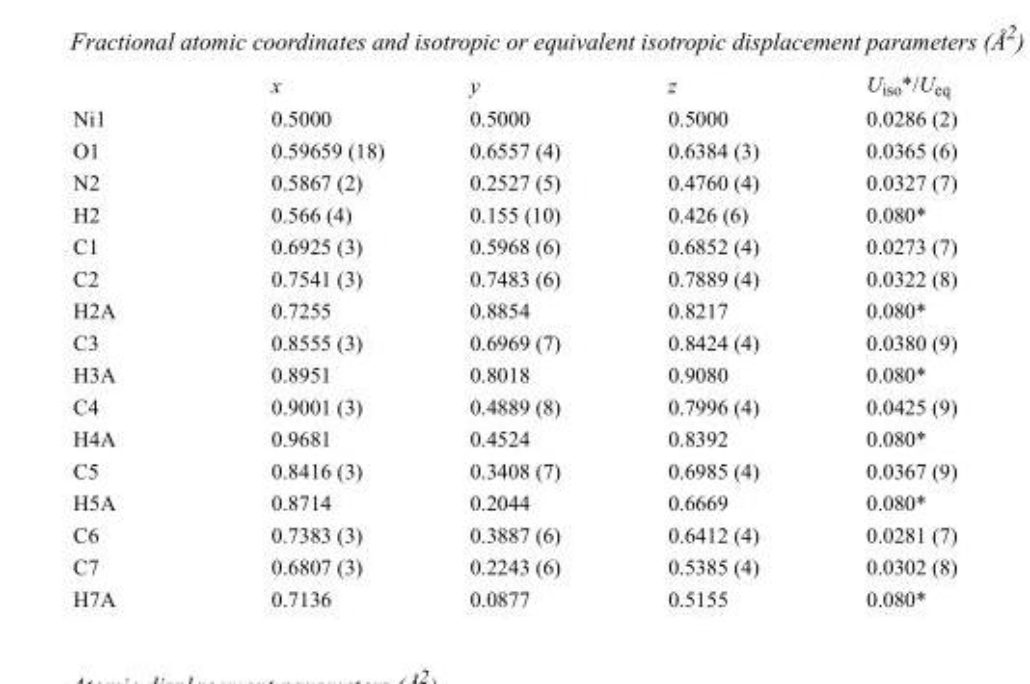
<table><thead><tr><td></td><td>x</td><td>y</td><td>z</td><td>U<sub>iso</sub>*/U<sub>eq</sub></td></tr></thead><tbody><tr><td>Ni1</td><td>0.5000</td><td>0.5000</td><td>0.5000</td><td>0.0286 (2)</td></tr><tr><td>O1</td><td>0.59659 (18)</td><td>0.6557 (4)</td><td>0.6384 (3)</td><td>0.0365 (6)</td></tr><tr><td>N2</td><td>0.5867 (2)</td><td>0.2527 (5)</td><td>0.4760 (4)</td><td>0.0327 (7)</td></tr><tr><td>H2</td><td>0.566 (4)</td><td>0.155 (10)</td><td>0.426 (6)</td><td>0.080*</td></tr><tr><td>C1</td><td>0.6925 (3)</td><td>0.5968 (6)</td><td>0.6852 (4)</td><td>0.0273 (7)</td></tr><tr><td>C2</td><td>0.7541 (3)</td><td>0.7483 (6)</td><td>0.7889 (4)</td><td>0.0322 (8)</td></tr><tr><td>H2A</td><td>0.7255</td><td>0.8854</td><td>0.8217</td><td>0.080*</td></tr><tr><td>C3</td><td>0.8555 (3)</td><td>0.6969 (7)</td><td>0.8424 (4)</td><td>0.0380 (9)</td></tr><tr><td>H3A</td><td>0.8951</td><td>0.8018</td><td>0.9080</td><td>0.080*</td></tr><tr><td>C4</td><td>0.9001 (3)</td><td>0.4889 (8)</td><td>0.7996 (4)</td><td>0.0425 (9)</td></tr><tr><td>H4A</td><td>0.9681</td><td>0.4524</td><td>0.8392</td><td>0.080*</td></tr><tr><td>C5</td><td>0.8416 (3)</td><td>0.3408 (7)</td><td>0.6985 (4)</td><td>0.0367 (9)</td></tr><tr><td>H5A</td><td>0.8714</td><td>0.2044</td><td>0.6669</td><td>0.080*</td></tr><tr><td>C6</td><td>0.7383 (3)</td><td>0.3887 (6)</td><td>0.6412 (4)</td><td>0.0281 (7)</td></tr><tr><td>C7</td><td>0.6807 (3)</td><td>0.2243 (6)</td><td>0.5385 (4)</td><td>0.0302 (8)</td></tr><tr><td>H7A</td><td>0.7136</td><td>0.0877</td><td>0.5155</td><td>0.080*</td></tr></tbody></table>